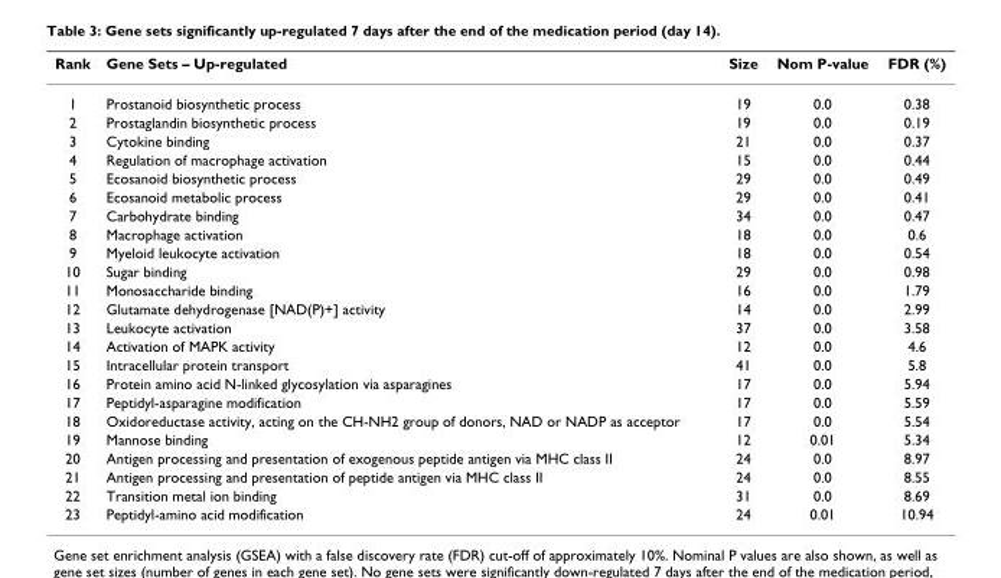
<table><thead><tr><td>Rank</td><td>Gene Sets – Up-regulated</td><td>Size</td><td>Nom P-value</td><td>FDR (%)</td></tr></thead><tbody><tr><td>1</td><td>Prostanoid biosynthetic process</td><td>19</td><td>0.0</td><td>0.38</td></tr><tr><td>2</td><td>Prostaglandin biosynthetic process</td><td>19</td><td>0.0</td><td>0.19</td></tr><tr><td>3</td><td>Cytokine binding</td><td>21</td><td>0.0</td><td>0.37</td></tr><tr><td>4</td><td>Regulation of macrophage activation</td><td>15</td><td>0.0</td><td>0.44</td></tr><tr><td>5</td><td>Ecosanoid biosynthetic process</td><td>29</td><td>0.0</td><td>0.49</td></tr><tr><td>6</td><td>Ecosanoid metabolic process</td><td>29</td><td>0.0</td><td>0.41</td></tr><tr><td>7</td><td>Carbohydrate binding</td><td>34</td><td>0.0</td><td>0.47</td></tr><tr><td>8</td><td>Macrophage activation</td><td>18</td><td>0.0</td><td>0.6</td></tr><tr><td>9</td><td>Myeloid leukocyte activation</td><td>18</td><td>0.0</td><td>0.54</td></tr><tr><td>10</td><td>Sugar binding</td><td>29</td><td>0.0</td><td>0.98</td></tr><tr><td>11</td><td>Monosaccharide binding</td><td>16</td><td>0.0</td><td>1.79</td></tr><tr><td>12</td><td>Glutamate dehydrogenase [NAD(P)+] activity</td><td>14</td><td>0.0</td><td>2.99</td></tr><tr><td>13</td><td>Leukocyte activation</td><td>37</td><td>0.0</td><td>3.58</td></tr><tr><td>14</td><td>Activation of MAPK activity</td><td>12</td><td>0.0</td><td>4.6</td></tr><tr><td>15</td><td>Intracellular protein transport</td><td>41</td><td>0.0</td><td>5.8</td></tr><tr><td>16</td><td>Protein amino acid N-linked glycosylation via asparagines</td><td>17</td><td>0.0</td><td>5.94</td></tr><tr><td>17</td><td>Peptidyl-asparagine modification</td><td>17</td><td>0.0</td><td>5.59</td></tr><tr><td>18</td><td>Oxidoreductase activity, acting on the CH-NH2 group of donors, NAD or NADP as acceptor</td><td>17</td><td>0.0</td><td>5.54</td></tr><tr><td>19</td><td>Mannose binding</td><td>12</td><td>0.01</td><td>5.34</td></tr><tr><td>20</td><td>Antigen processing and presentation of exogenous peptide antigen via MHC class II</td><td>24</td><td>0.0</td><td>8.97</td></tr><tr><td>21</td><td>Antigen processing and presentation of peptide antigen via MHC class II</td><td>24</td><td>0.0</td><td>8.55</td></tr><tr><td>22</td><td>Transition metal ion binding</td><td>31</td><td>0.0</td><td>8.69</td></tr><tr><td>23</td><td>Peptidyl-amino acid modification</td><td>24</td><td>0.01</td><td>10.94</td></tr></tbody></table>